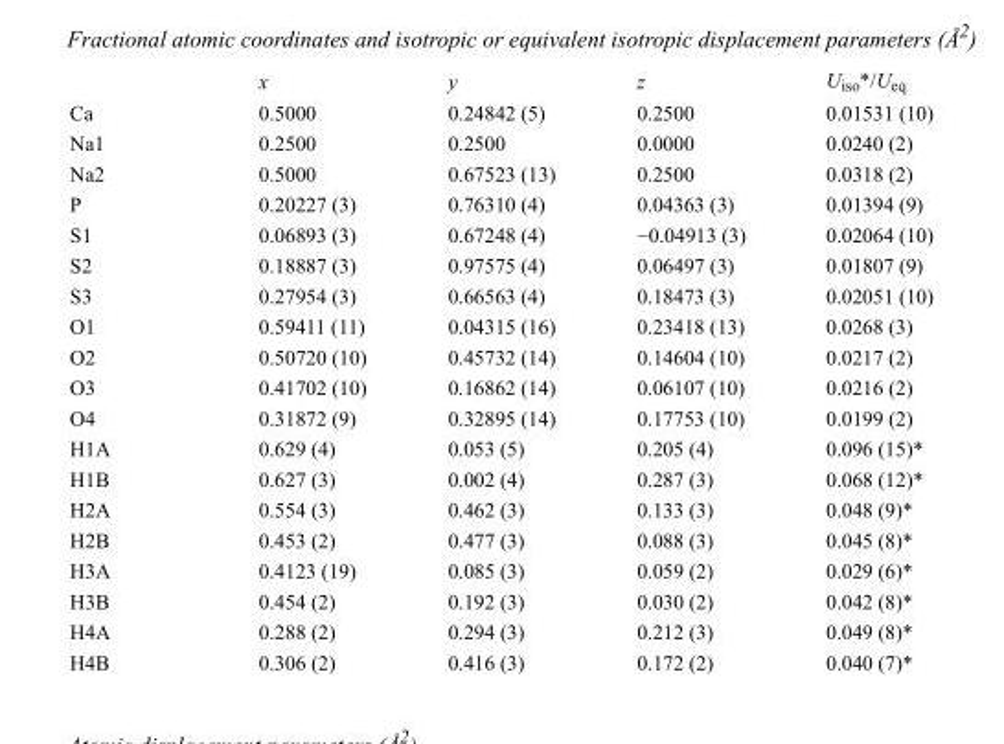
<table><thead><tr><td></td><td>x</td><td>y</td><td>z</td><td>U<sub>iso</sub>*/U<sub>eq</sub></td></tr></thead><tbody><tr><td>Ca</td><td>0.5000</td><td>0.24842 (5)</td><td>0.2500</td><td>0.01531 (10)</td></tr><tr><td>Na1</td><td>0.2500</td><td>0.2500</td><td>0.0000</td><td>0.0240 (2)</td></tr><tr><td>Na2</td><td>0.5000</td><td>0.67523 (13)</td><td>0.2500</td><td>0.0318 (2)</td></tr><tr><td>P</td><td>0.20227 (3)</td><td>0.76310 (4)</td><td>0.04363 (3)</td><td>0.01394 (9)</td></tr><tr><td>S1</td><td>0.06893 (3)</td><td>0.67248 (4)</td><td>−0.04913 (3)</td><td>0.02064 (10)</td></tr><tr><td>S2</td><td>0.18887 (3)</td><td>0.97575 (4)</td><td>0.06497 (3)</td><td>0.01807 (9)</td></tr><tr><td>S3</td><td>0.27954 (3)</td><td>0.66563 (4)</td><td>0.18473 (3)</td><td>0.02051 (10)</td></tr><tr><td>O1</td><td>0.59411 (11)</td><td>0.04315 (16)</td><td>0.23418 (13)</td><td>0.0268 (3)</td></tr><tr><td>O2</td><td>0.50720 (10)</td><td>0.45732 (14)</td><td>0.14604 (10)</td><td>0.0217 (2)</td></tr><tr><td>O3</td><td>0.41702 (10)</td><td>0.16862 (14)</td><td>0.06107 (10)</td><td>0.0216 (2)</td></tr><tr><td>O4</td><td>0.31872 (9)</td><td>0.32895 (14)</td><td>0.17753 (10)</td><td>0.0199 (2)</td></tr><tr><td>H1A</td><td>0.629 (4)</td><td>0.053 (5)</td><td>0.205 (4)</td><td>0.096 (15)*</td></tr><tr><td>H1B</td><td>0.627 (3)</td><td>0.002 (4)</td><td>0.287 (3)</td><td>0.068 (12)*</td></tr><tr><td>H2A</td><td>0.554 (3)</td><td>0.462 (3)</td><td>0.133 (3)</td><td>0.048 (9)*</td></tr><tr><td>H2B</td><td>0.453 (2)</td><td>0.477 (3)</td><td>0.088 (3)</td><td>0.045 (8)*</td></tr><tr><td>H3A</td><td>0.4123 (19)</td><td>0.085 (3)</td><td>0.059 (2)</td><td>0.029 (6)*</td></tr><tr><td>H3B</td><td>0.454 (2)</td><td>0.192 (3)</td><td>0.030 (2)</td><td>0.042 (8)*</td></tr><tr><td>H4A</td><td>0.288 (2)</td><td>0.294 (3)</td><td>0.212 (3)</td><td>0.049 (8)*</td></tr><tr><td>H4B</td><td>0.306 (2)</td><td>0.416 (3)</td><td>0.172 (2)</td><td>0.040 (7)*</td></tr></tbody></table>